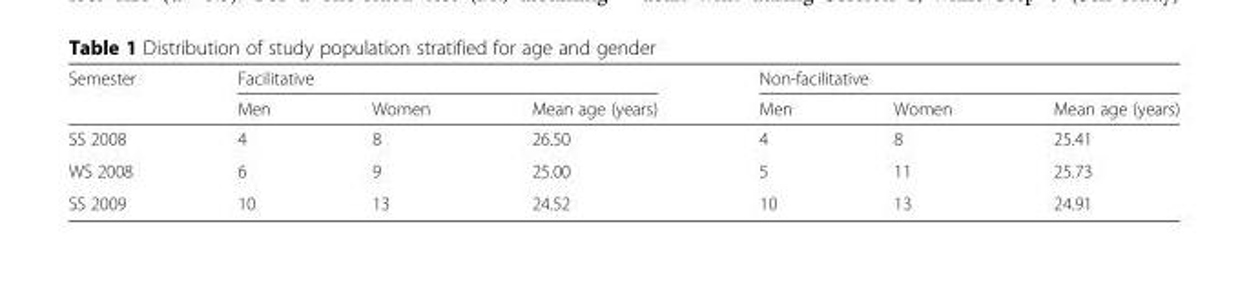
<table><thead><tr><td rowspan="2">Semester</td><td colspan="3">Facilitative</td><td colspan="3">Non-facilitative</td></tr><tr><td>Men</td><td>Women</td><td>Mean age (years)</td><td>Men</td><td>Women</td><td>Mean age (years)</td></tr></thead><tbody><tr><td>SS 2008</td><td>4</td><td>8</td><td>26.50</td><td>4</td><td>8</td><td>25.41</td></tr><tr><td>WS 2008</td><td>6</td><td>9</td><td>25.00</td><td>5</td><td>11</td><td>25.73</td></tr><tr><td>SS 2009</td><td>10</td><td>13</td><td>24.52</td><td>10</td><td>13</td><td>24.91</td></tr></tbody></table>